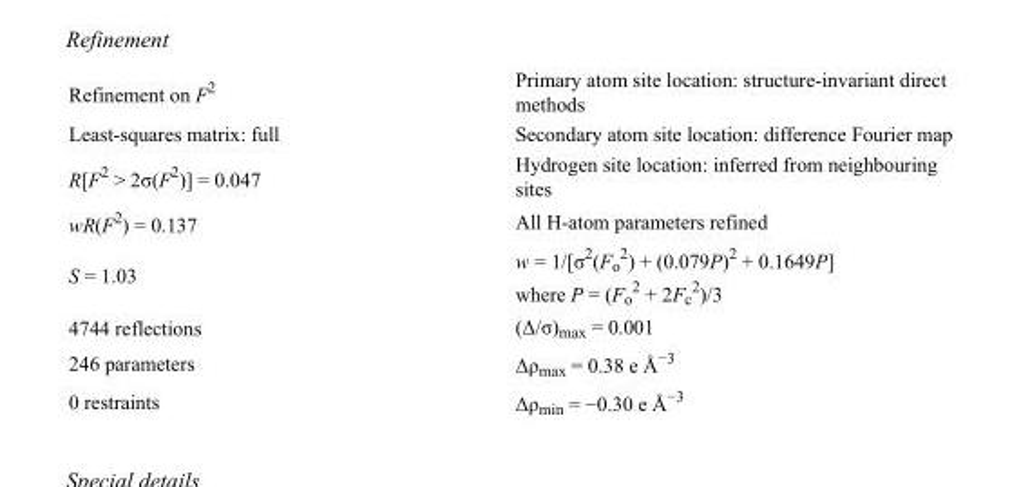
<table><tbody><tr><td>Refinement on F<sup>2</sup></td><td>Primary atom site location: structure-invariant direct methods</td></tr><tr><td>Least-squares matrix: full</td><td>Secondary atom site location: difference Fourier map</td></tr><tr><td>R[F<sup>2</sup> &gt; 2σ(F<sup>2</sup>)] = 0.047</td><td>Hydrogen site location: inferred from neighbouring sites</td></tr><tr><td>wR(F<sup>2</sup>) = 0.137</td><td>All H-atom parameters refined</td></tr><tr><td>S = 1.03</td><td>w = 1/[σ<sup>2</sup>(F<sub>o</sub> <sup>2</sup>) + (0.079P)<sup>2</sup> + 0.1649P] where P = (F<sub>o</sub> <sup>2</sup> + 2F<sub>c</sub> <sup>2</sup>)/3</td></tr><tr><td>4744 reflections</td><td>(Δ/σ)<sub>max</sub> = 0.001</td></tr><tr><td>246 parameters</td><td>Δρ<sub>max</sub> = 0.38 e Å<sup>−3</sup></td></tr><tr><td>0 restraints</td><td>Δρ<sub>min</sub> = −0.30 e Å<sup>−3</sup></td></tr></tbody></table>